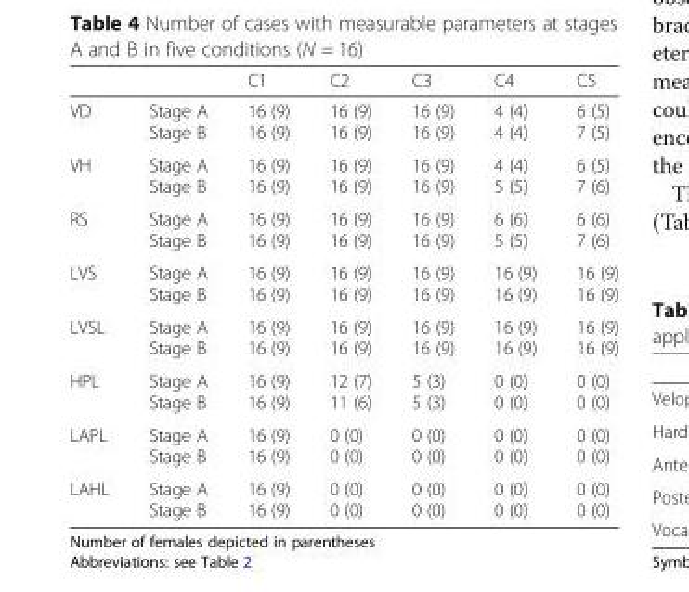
<table><thead><tr><td></td><td></td><td>C1</td><td>C2</td><td>C3</td><td>C4</td><td>C5</td></tr></thead><tbody><tr><td>VD</td><td>Stage A Stage B</td><td>16 (9) 16 (9)</td><td>16 (9) 16 (9)</td><td>16 (9) 16 (9)</td><td>4 (4) 4 (4)</td><td>6 (5) 7 (5)</td></tr><tr><td>VH</td><td>Stage A Stage B</td><td>16 (9) 16 (9)</td><td>16 (9) 16 (9)</td><td>16 (9) 16 (9)</td><td>4 (4) 5 (5)</td><td>6 (5) 7 (6)</td></tr><tr><td>RS</td><td>Stage A Stage B</td><td>16 (9) 16 (9)</td><td>16 (9) 16 (9)</td><td>16 (9) 16 (9)</td><td>6 (6) 5 (5)</td><td>6 (6) 7 (6)</td></tr><tr><td>LVS</td><td>Stage A Stage B</td><td>16 (9) 16 (9)</td><td>16 (9) 16 (9)</td><td>16 (9) 16 (9)</td><td>16 (9) 16 (9)</td><td>16 (9) 16 (9)</td></tr><tr><td>LVSL</td><td>Stage A Stage B</td><td>16 (9) 16 (9)</td><td>16 (9) 16 (9)</td><td>16 (9) 16 (9)</td><td>16 (9) 16 (9)</td><td>16 (9) 16 (9)</td></tr><tr><td>HPL</td><td>Stage A Stage B</td><td>16 (9) 16 (9)</td><td>12 (7) 11 (6)</td><td>5 (3) 5 (3)</td><td>0 (0) 0 (0)</td><td>0 (0) 0 (0)</td></tr><tr><td>LAPL</td><td>Stage A Stage B</td><td>16 (9) 16 (9)</td><td>0 (0) 0 (0)</td><td>0 (0) 0 (0)</td><td>0 (0) 0 (0)</td><td>0 (0) 0 (0)</td></tr><tr><td>LAHL</td><td>Stage A Stage B</td><td>16 (9) 16 (9)</td><td>0 (0) 0 (0)</td><td>0 (0) 0 (0)</td><td>0 (0) 0 (0)</td><td>0 (0) 0 (0)</td></tr></tbody></table>